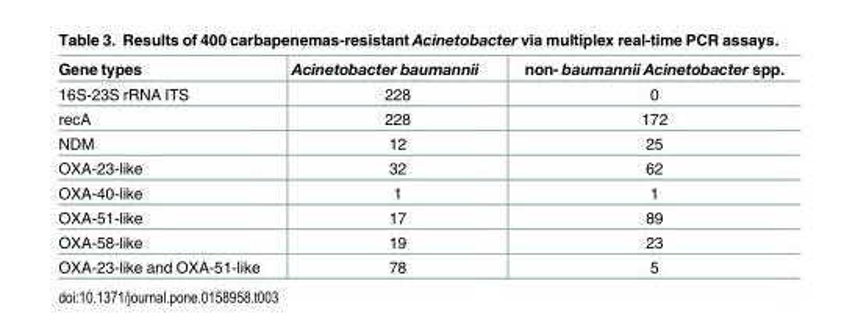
<table><thead><tr><td>Gene types</td><td>Acinetobacter baumannii</td><td>non- baumannii Acinetobacter spp.</td></tr></thead><tbody><tr><td>16S-23S rRNA ITS</td><td>228</td><td>0</td></tr><tr><td>recA</td><td>228</td><td>172</td></tr><tr><td>NDM</td><td>12</td><td>25</td></tr><tr><td>OXA-23-like</td><td>32</td><td>62</td></tr><tr><td>OXA-40-like</td><td>1</td><td>1</td></tr><tr><td>OXA-51-like</td><td>17</td><td>89</td></tr><tr><td>OXA-58-like</td><td>19</td><td>23</td></tr><tr><td>OXA-23-like and OXA-51-like</td><td>78</td><td>5</td></tr></tbody></table>